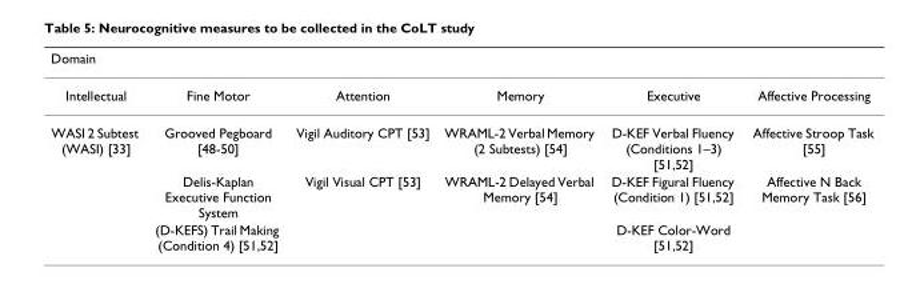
<table><thead><tr><td>Domain</td><td></td><td></td><td></td><td></td><td></td></tr></thead><tbody><tr><td>Intellectual</td><td>Fine Motor</td><td>Attention</td><td>Memory</td><td>Executive</td><td>Affective Processing</td></tr><tr><td rowspan="3">WASI 2 Subtest (WASI) [33]</td><td>Grooved Pegboard [48-50]</td><td>Vigil Auditory CPT [53]</td><td>WRAML-2 Verbal Memory (2 Subtests) [54]</td><td>D-KEF Verbal Fluency (Conditions 1–3) [51,52]</td><td>Affective Stroop Task [55]</td></tr><tr><td>Delis-Kaplan Executive Function System</td><td>Vigil Visual CPT [53]</td><td>WRAML-2 Delayed Verbal Memory [54]</td><td>D-KEF Figural Fluency (Condition 1) [51,52]</td><td>Affective N Back Memory Task [56]</td></tr><tr><td>(D-KEFS) Trail Making (Condition 4) [51,52]</td><td></td><td></td><td>D-KEF Color-Word [51,52]</td><td></td></tr></tbody></table>